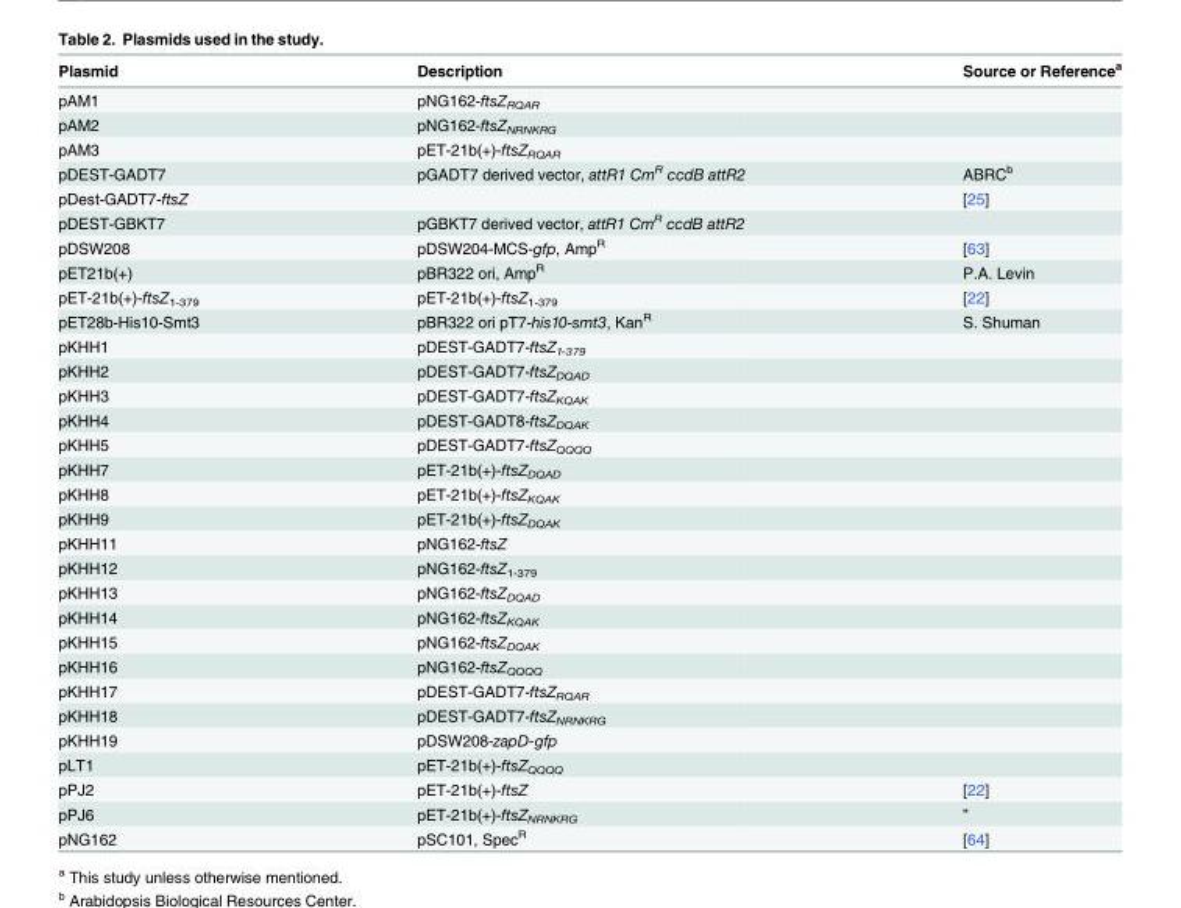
<table><thead><tr><td>Plasmid</td><td>Description</td><td>Source or Reference<sup>a</sup></td></tr></thead><tbody><tr><td>pAM1</td><td>pNG162-ftsZ<sub>RQAR</sub></td><td></td></tr><tr><td>pAM2</td><td>pNG162-ftsZ<sub>NRNKRG</sub></td><td></td></tr><tr><td>pAM3</td><td>pET-21b(+)-ftsZ<sub>RQAR</sub></td><td></td></tr><tr><td>pDEST-GADT7</td><td>pGADT7 derived vector, attR1 Cm<sup>R</sup> ccdB attR2</td><td>ABRC<sup>b</sup></td></tr><tr><td>pDest-GADT7-ftsZ</td><td></td><td>[25]</td></tr><tr><td>pDEST-GBKT7</td><td>pGBKT7 derived vector, attR1 Cm<sup>R</sup> ccdB attR2</td><td></td></tr><tr><td>pDSW208</td><td>pDSW204-MCS-gfp, Amp<sup>R</sup></td><td>[63]</td></tr><tr><td>pET21b(+)</td><td>pBR322 ori, Amp<sup>R</sup></td><td>P.A. Levin</td></tr><tr><td>pET-21b(+)-ftsZ<sub>1-379</sub></td><td>pET-21b(+)-ftsZ<sub>1-379</sub></td><td>[22]</td></tr><tr><td>pET28b-His10-Smt3</td><td>pBR322 ori pT7-his10-smt3, Kan<sup>R</sup></td><td>S. Shuman</td></tr><tr><td>pKHH1</td><td>pDEST-GADT7-ftsZ<sub>1-379</sub></td><td></td></tr><tr><td>pKHH2</td><td>pDEST-GADT7-ftsZ<sub>DQAD</sub></td><td></td></tr><tr><td>pKHH3</td><td>pDEST-GADT7-ftsZ<sub>KQAK</sub></td><td></td></tr><tr><td>pKHH4</td><td>pDEST-GADT8-ftsZ<sub>DQAK</sub></td><td></td></tr><tr><td>pKHH5</td><td>pDEST-GADT7-ftsZ<sub>QQQQ</sub></td><td></td></tr><tr><td>pKHH7</td><td>pET-21b(+)-ftsZ<sub>DQAD</sub></td><td></td></tr><tr><td>pKHH8</td><td>pET-21b(+)-ftsZ<sub>KQAK</sub></td><td></td></tr><tr><td>pKHH9</td><td>pET-21b(+)-ftsZ<sub>DQAK</sub></td><td></td></tr><tr><td>pKHH11</td><td>pNG162-ftsZ</td><td></td></tr><tr><td>pKHH12</td><td>pNG162-ftsZ<sub>1-379</sub></td><td></td></tr><tr><td>pKHH13</td><td>pNG162-ftsZ<sub>DQAD</sub></td><td></td></tr><tr><td>pKHH14</td><td>pNG162-ftsZ<sub>KQAK</sub></td><td></td></tr><tr><td>pKHH15</td><td>pNG162-ftsZ<sub>DQAK</sub></td><td></td></tr><tr><td>pKHH16</td><td>pNG162-ftsZ<sub>QQQQ</sub></td><td></td></tr><tr><td>pKHH17</td><td>pDEST-GADT7-ftsZ<sub>RQAR</sub></td><td></td></tr><tr><td>pKHH18</td><td>pDEST-GADT7-ftsZ<sub>NRNKRG</sub></td><td></td></tr><tr><td>pKHH19</td><td>pDSW208-zapD-gfp</td><td></td></tr><tr><td>pLT1</td><td>pET-21b(+)-ftsZ<sub>QQQQ</sub></td><td></td></tr><tr><td>pPJ2</td><td>pET-21b(+)-ftsZ</td><td>[22]</td></tr><tr><td>pPJ6</td><td>pET-21b(+)-ftsZ<sub>NRNKRG</sub></td><td>”</td></tr><tr><td>pNG162</td><td>pSC101, Spec<sup>R</sup></td><td>[64]</td></tr></tbody></table>